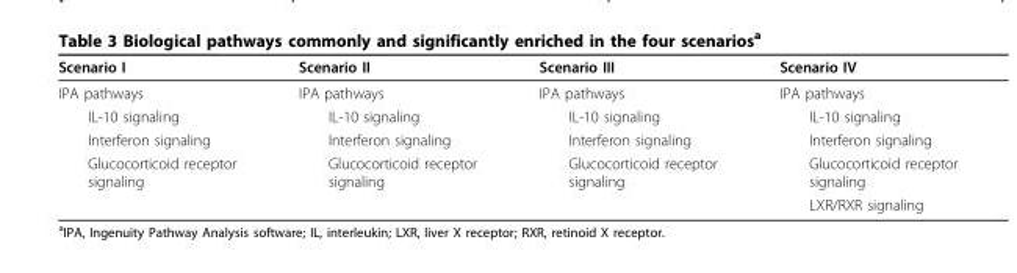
<table><thead><tr><td>Scenario I</td><td>Scenario II</td><td>Scenario III</td><td>Scenario IV</td></tr></thead><tbody><tr><td>IPA pathways</td><td>IPA pathways</td><td>IPA pathways</td><td>IPA pathways</td></tr><tr><td>IL-10 signaling</td><td>IL-10 signaling</td><td>IL-10 signaling</td><td>IL-10 signaling</td></tr><tr><td>Interferon signaling</td><td>Interferon signaling</td><td>Interferon signaling</td><td>Interferon signaling</td></tr><tr><td rowspan="2">Glucocorticoid receptor signaling</td><td>Glucocorticoid receptor signaling</td><td>Glucocorticoid receptor signaling</td><td>Glucocorticoid receptor signaling</td></tr><tr><td></td><td></td><td>LXR/RXR signaling</td></tr></tbody></table>